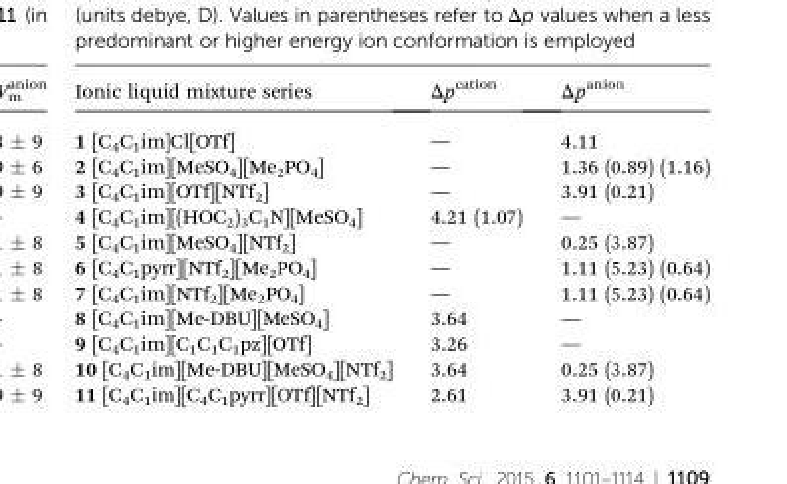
<table><thead><tr><td>Ionic liquid mixture series</td><td>Δp<sup>cation</sup></td><td>Δp<sup>anion</sup></td></tr></thead><tbody><tr><td>1 [C<sub>4</sub>C<sub>1</sub>im]Cl[OTf]</td><td>—</td><td>4.11</td></tr><tr><td>2 [C<sub>4</sub>C<sub>1</sub>im][MeSO<sub>4</sub>][Me<sub>2</sub>PO<sub>4</sub>]</td><td>—</td><td>1.36 (0.89) (1.16)</td></tr><tr><td>3 [C<sub>4</sub>C<sub>1</sub>im][OTf][NTf<sub>2</sub>]</td><td>—</td><td>3.91 (0.21)</td></tr><tr><td>4 [C<sub>4</sub>C<sub>1</sub>im][(HOC<sub>2</sub>)<sub>3</sub>C<sub>1</sub>N][MeSO<sub>4</sub>]</td><td>4.21 (1.07)</td><td>—</td></tr><tr><td>5 [C<sub>4</sub>C<sub>1</sub>im][MeSO<sub>4</sub>][NTf<sub>2</sub>]</td><td>—</td><td>0.25 (3.87)</td></tr><tr><td>6 [C<sub>4</sub>C<sub>1</sub>pyrr][NTf<sub>2</sub>][Me<sub>2</sub>PO<sub>4</sub>]</td><td>—</td><td>1.11 (5.23) (0.64)</td></tr><tr><td>7 [C<sub>4</sub>C<sub>1</sub>im][NTf<sub>2</sub>][Me<sub>2</sub>PO<sub>4</sub>]</td><td>—</td><td>1.11 (5.23) (0.64)</td></tr><tr><td>8 [C<sub>4</sub>C<sub>1</sub>im][Me-DBU][MeSO<sub>4</sub>]</td><td>3.64</td><td>—</td></tr><tr><td>9 [C<sub>4</sub>C<sub>1</sub>im][C<sub>1</sub>C<sub>1</sub>C<sub>1</sub>pz][OTf]</td><td>3.26</td><td>—</td></tr><tr><td>10 [C<sub>4</sub>C<sub>1</sub>im][Me-DBU][MeSO<sub>4</sub>][NTf<sub>2</sub>]</td><td>3.64</td><td>0.25 (3.87)</td></tr><tr><td>11 [C<sub>4</sub>C<sub>1</sub>im][C<sub>4</sub>C<sub>1</sub>pyrr][OTf][NTf<sub>2</sub>]</td><td>2.61</td><td>3.91 (0.21)</td></tr></tbody></table>